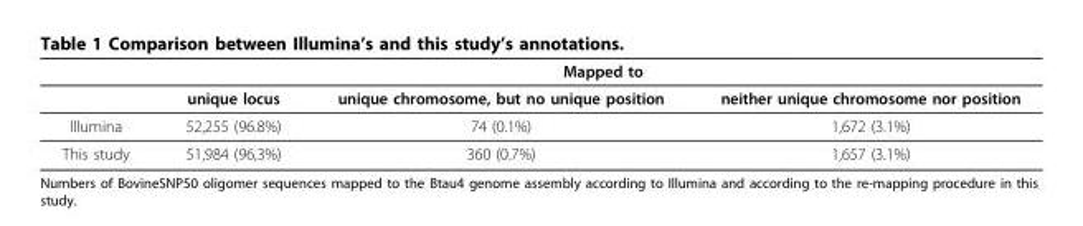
<table><thead><tr><td rowspan="2"></td><td colspan="3">Mapped to</td></tr><tr><td>unique locus</td><td>unique chromosome, but no unique position</td><td>neither unique chromosome nor position</td></tr></thead><tbody><tr><td>Illumina</td><td>52,255 (96.8%)</td><td>74 (0.1%)</td><td>1,672 (3.1%)</td></tr><tr><td>This study</td><td>51,984 (96,3%)</td><td>360 (0.7%)</td><td>1,657 (3.1%)</td></tr></tbody></table>